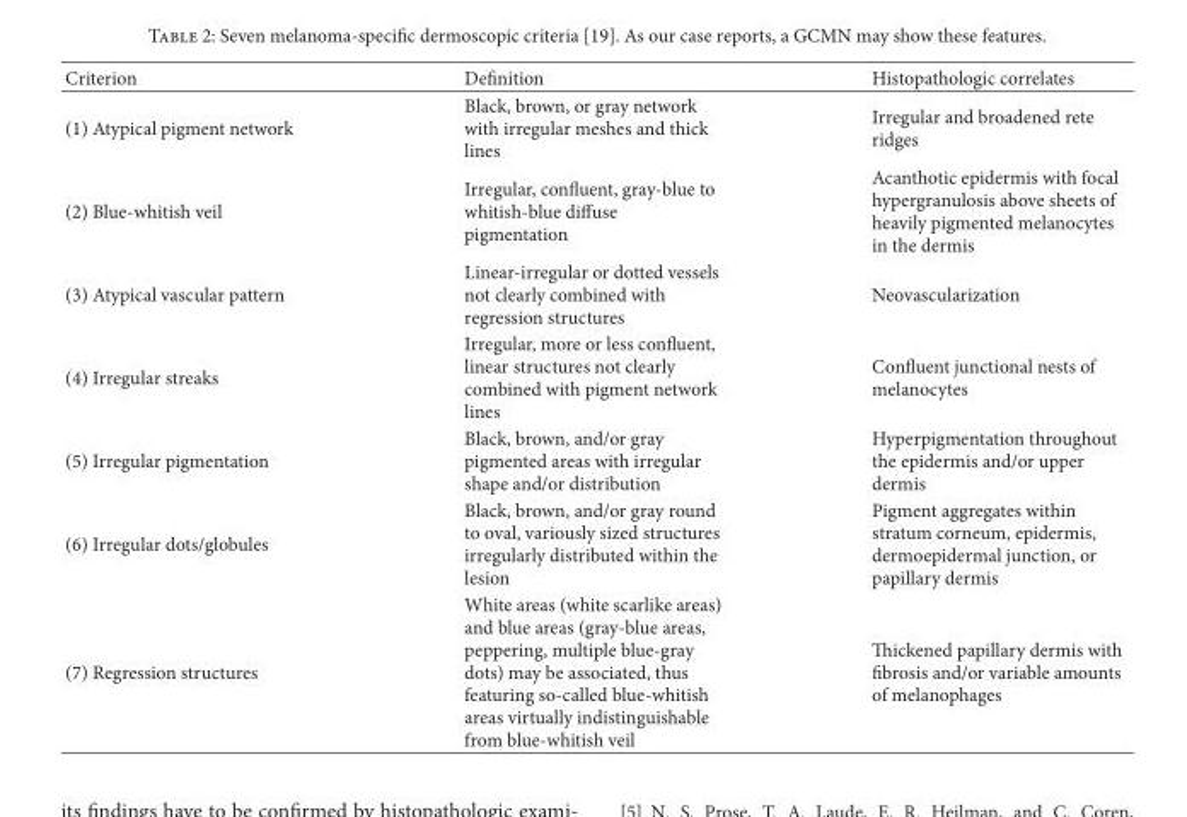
<table><thead><tr><td>Criterion</td><td>De�nition</td><td>Histopathologic correlates</td></tr></thead><tbody><tr><td>(1) Atypical pigment network</td><td>Black, brown, or gray network with irregular meshes and thick lines</td><td>Irregular and broadened rete ridges</td></tr><tr><td>(2) Blue-whitish veil</td><td>Irregular, con�uent, gray-blue to whitish-blue diffuse pigmentation</td><td>Acanthotic epidermis with focal hypergranulosis above sheets of heavily pigmented melanocytes in the dermis</td></tr><tr><td>(3) Atypical vascular pattern</td><td>Linear-irregular or dotted vessels not clearly combined with regression structures</td><td>Neovascularization</td></tr><tr><td>(4) Irregular streaks</td><td>Irregular, more or less con�uent, linear structures not clearly combined with pigment network lines</td><td>Con�uent junctional nests of melanocytes</td></tr><tr><td>(5) Irregular pigmentation</td><td>Black, brown, and/or gray pigmented areas with irregular shape and/or distribution</td><td>Hyperpigmentation throughout the epidermis and/or upper dermis</td></tr><tr><td>(6) Irregular dots/globules</td><td>Black, brown, and/or gray round to oval, variously sized structures irregularly distributed within the lesion</td><td>Pigment aggregates within stratum corneum, epidermis, dermoepidermal junction, or papillary dermis</td></tr><tr><td>(7) Regression structures</td><td>White areas (white scarlike areas) and blue areas (gray-blue areas, peppering, multiple blue-gray dots) may be associated, thus featuring so-called blue-whitish areas virtually indistinguishable from blue-whitish veil</td><td>ickened papillary dermis with �brosis and/or variable amounts of melanophages</td></tr></tbody></table>